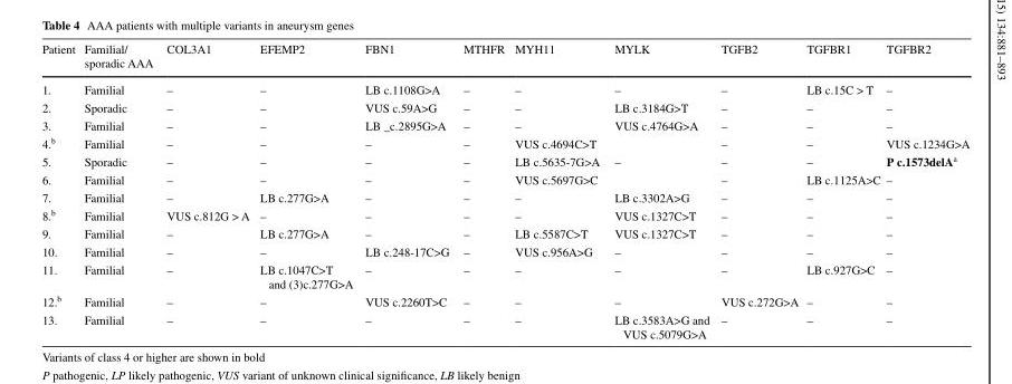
<table><thead><tr><td>Patient</td><td>Familial/ sporadic AAA</td><td>COL3A1</td><td>EFEMP2</td><td>FBN1</td><td>MTHFR</td><td>MYH11</td><td>MYLK</td><td>TGFB2</td><td>TGFBR1</td><td>TGFBR2</td></tr></thead><tbody><tr><td>1.</td><td>Familial</td><td>–</td><td>–</td><td>LB c.1108G&gt;A</td><td>–</td><td>–</td><td>–</td><td>–</td><td>LB c.15C &gt; T</td><td>–</td></tr><tr><td>2.</td><td>Sporadic</td><td>–</td><td>–</td><td>VUS c.59A&gt;G</td><td>–</td><td>–</td><td>LB c.3184G&gt;T</td><td>–</td><td>–</td><td>–</td></tr><tr><td>3.</td><td>Familial</td><td>–</td><td>–</td><td>LB _c.2895G&gt;A</td><td>–</td><td>–</td><td>VUS c.4764G&gt;A</td><td>–</td><td>–</td><td>–</td></tr><tr><td>4.<sup>b</sup></td><td>Familial</td><td>–</td><td>–</td><td>–</td><td>–</td><td>VUS c.4694C&gt;T</td><td></td><td>–</td><td>–</td><td>VUS c.1234G&gt;A</td></tr><tr><td>5.</td><td>Sporadic</td><td>–</td><td>–</td><td>–</td><td>–</td><td>LB c.5635-7G&gt;A</td><td>–</td><td>–</td><td>–</td><td>P c.1573delA<sup>a</sup></td></tr><tr><td>6.</td><td>Familial</td><td>–</td><td>–</td><td>–</td><td>–</td><td>VUS c.5697G&gt;C</td><td></td><td>–</td><td>LB c.1125A&gt;C</td><td>–</td></tr><tr><td>7.</td><td>Familial</td><td>–</td><td>LB c.277G&gt;A</td><td>–</td><td>–</td><td>–</td><td>LB c.3302A&gt;G</td><td>–</td><td>–</td><td>–</td></tr><tr><td>8.<sup>b</sup></td><td>Familial</td><td>VUS c.812G &gt; A</td><td>–</td><td>–</td><td>–</td><td>–</td><td>VUS c.1327C&gt;T</td><td>–</td><td>–</td><td>–</td></tr><tr><td>9.</td><td>Familial</td><td>–</td><td>LB c.277G&gt;A</td><td>–</td><td>–</td><td>LB c.5587C&gt;T</td><td>VUS c.1327C&gt;T</td><td>–</td><td>–</td><td>–</td></tr><tr><td>10.</td><td>Familial</td><td>–</td><td>–</td><td>LB c.248-17C&gt;G</td><td>–</td><td>VUS c.956A&gt;G</td><td>–</td><td>–</td><td>–</td><td>–</td></tr><tr><td>11.</td><td>Familial</td><td>–</td><td>LB c.1047C&gt;T and (3)c.277G&gt;A</td><td>–</td><td>–</td><td>–</td><td>–</td><td>–</td><td>LB c.927G&gt;C</td><td>–</td></tr><tr><td>12.<sup>b</sup></td><td>Familial</td><td>–</td><td>–</td><td>VUS c.2260T&gt;C</td><td>–</td><td>–</td><td>–</td><td>VUS c.272G&gt;A</td><td>–</td><td>–</td></tr><tr><td>13.</td><td>Familial</td><td>–</td><td>–</td><td>–</td><td>–</td><td>–</td><td>LB c.3583A&gt;G and VUS c.5079G&gt;A</td><td>–</td><td>–</td><td>–</td></tr></tbody></table>